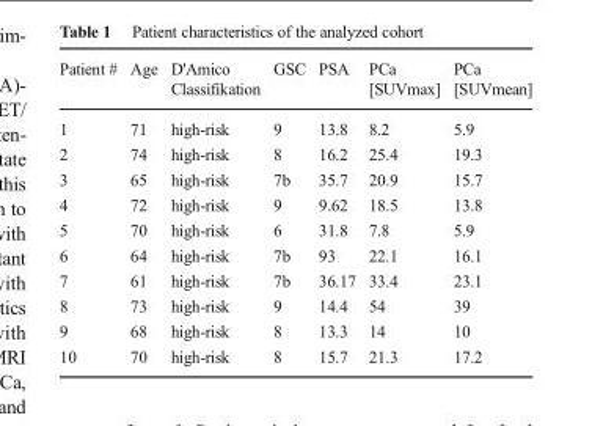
<table><thead><tr><td>Patient #</td><td>Age</td><td>D&#x27;Amico Classifikation</td><td>GSC</td><td>PSA</td><td>PCa [SUVmax]</td><td>PCa [SUVmean]</td></tr></thead><tbody><tr><td>1</td><td>71</td><td>high-risk</td><td>9</td><td>13.8</td><td>8.2</td><td>5.9</td></tr><tr><td>2</td><td>74</td><td>high-risk</td><td>8</td><td>16.2</td><td>25.4</td><td>19.3</td></tr><tr><td>3</td><td>65</td><td>high-risk</td><td>7b</td><td>35.7</td><td>20.9</td><td>15.7</td></tr><tr><td>4</td><td>72</td><td>high-risk</td><td>9</td><td>9.62</td><td>18.5</td><td>13.8</td></tr><tr><td>5</td><td>70</td><td>high-risk</td><td>6</td><td>31.8</td><td>7.8</td><td>5.9</td></tr><tr><td>6</td><td>64</td><td>high-risk</td><td>7b</td><td>93</td><td>22.1</td><td>16.1</td></tr><tr><td>7</td><td>61</td><td>high-risk</td><td>7b</td><td>36.17</td><td>33.4</td><td>23.1</td></tr><tr><td>8</td><td>73</td><td>high-risk</td><td>9</td><td>14.4</td><td>54</td><td>39</td></tr><tr><td>9</td><td>68</td><td>high-risk</td><td>8</td><td>13.3</td><td>14</td><td>10</td></tr><tr><td>10</td><td>70</td><td>high-risk</td><td>8</td><td>15.7</td><td>21.3</td><td>17.2</td></tr></tbody></table>